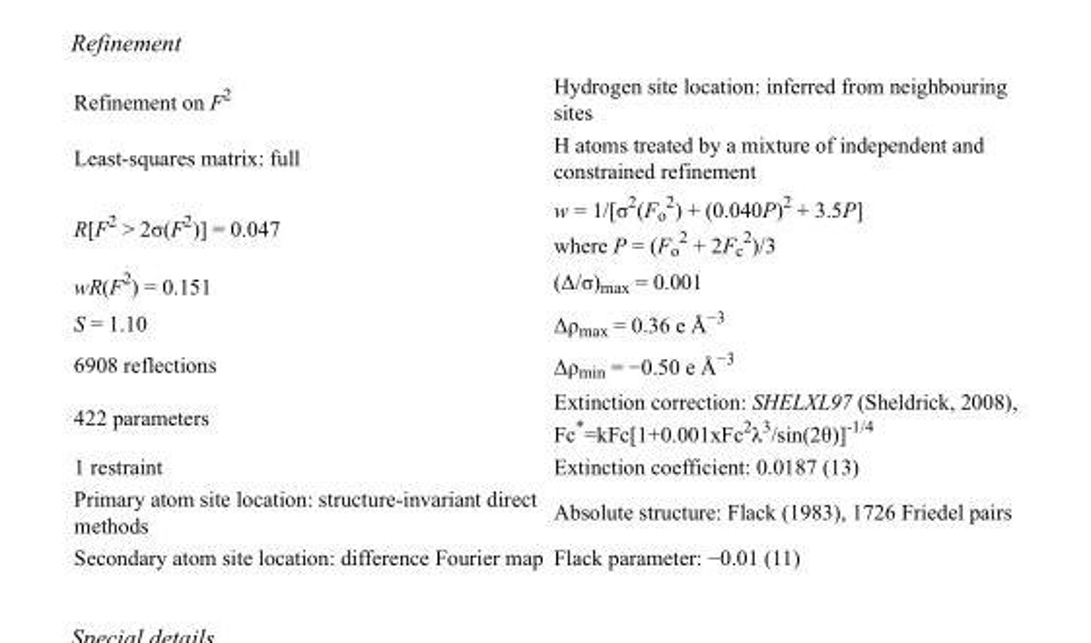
<table><tbody><tr><td>Refinement on F<sup>2</sup></td><td>Hydrogen site location: inferred from neighbouring sites</td></tr><tr><td>Least-squares matrix: full</td><td>H atoms treated by a mixture of independent and constrained refinement</td></tr><tr><td>R[F<sup>2</sup> &gt; 2σ(F<sup>2</sup>)] = 0.047</td><td>w = 1/[σ<sup>2</sup>(F<sub>o</sub> <sup>2</sup>) + (0.040P)<sup>2</sup> + 3.5P] where P = (F<sub>o</sub> <sup>2</sup> + 2F<sub>c</sub> <sup>2</sup>)/3</td></tr><tr><td>wR(F<sup>2</sup>) = 0.151</td><td>(Δ/σ)<sub>max</sub> = 0.001</td></tr><tr><td>S = 1.10</td><td>Δρ<sub>max</sub> = 0.36 e Å<sup>−3</sup></td></tr><tr><td>6908 reflections</td><td>Δρ<sub>min</sub> = −0.50 e Å<sup>−3</sup></td></tr><tr><td>422 parameters</td><td>Extinction correction: SHELXL97 (Sheldrick, 2008), Fc*=kFc[1+0.001xFc<sup>2</sup>λ<sup>3</sup>/sin(2θ)]<sup>-1/4</sup></td></tr><tr><td>1 restraint</td><td>Extinction coefficient: 0.0187 (13)</td></tr><tr><td>Primary atom site location: structure-invariant direct methods</td><td>Absolute structure: Flack (1983), 1726 Friedel pairs</td></tr><tr><td>Secondary atom site location: difference Fourier map</td><td>Flack parameter: −0.01 (11)</td></tr></tbody></table>